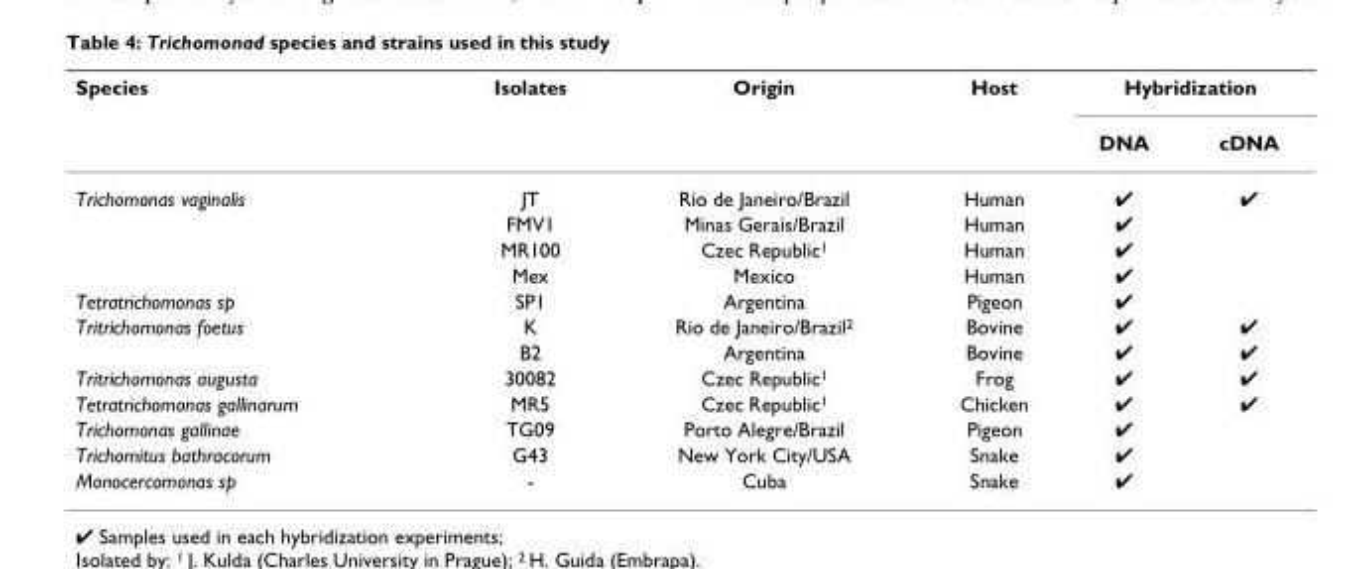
<table><thead><tr><td rowspan="2">Species</td><td rowspan="2">Isolates</td><td rowspan="2">Origin</td><td rowspan="2">Host</td><td colspan="2">Hybridization</td></tr><tr><td>DNA</td><td>cDNA</td></tr></thead><tbody><tr><td rowspan="4">Trichomonas vaginalis</td><td>JT</td><td>Rio de Janeiro/Brazil</td><td>Human</td><td>✔</td><td>✔</td></tr><tr><td>FMV1</td><td>Minas Gerais/Brazil</td><td>Human</td><td>✔</td><td></td></tr><tr><td>MR100</td><td>Czec Republic<sup>1</sup></td><td>Human</td><td>✔</td><td></td></tr><tr><td>Mex</td><td>Mexico</td><td>Human</td><td>✔</td><td></td></tr><tr><td>Tetratrichomonas sp</td><td>SP1</td><td>Argentina</td><td>Pigeon</td><td>✔</td><td></td></tr><tr><td rowspan="2">Tritrichomonas foetus</td><td>K</td><td>Rio de Janeiro/Brazil<sup>2</sup></td><td>Bovine</td><td>✔</td><td>✔</td></tr><tr><td>B2</td><td>Argentina</td><td>Bovine</td><td>✔</td><td>✔</td></tr><tr><td>Tritrichomonas augusta</td><td>30082</td><td>Czec Republic<sup>1</sup></td><td>Frog</td><td>✔</td><td>✔</td></tr><tr><td>Tetratrichomonas gallinarum</td><td>MR5</td><td>Czec Republic<sup>1</sup></td><td>Chicken</td><td>✔</td><td>✔</td></tr><tr><td>Trichomonas gallinae</td><td>TG09</td><td>Porto Alegre/Brazil</td><td>Pigeon</td><td>✔</td><td></td></tr><tr><td>Trichomitus bathracorum</td><td>G43</td><td>New York City/USA</td><td>Snake</td><td>✔</td><td></td></tr><tr><td>Monocercomonas sp</td><td>-</td><td>Cuba</td><td>Snake</td><td>✔</td><td></td></tr></tbody></table>